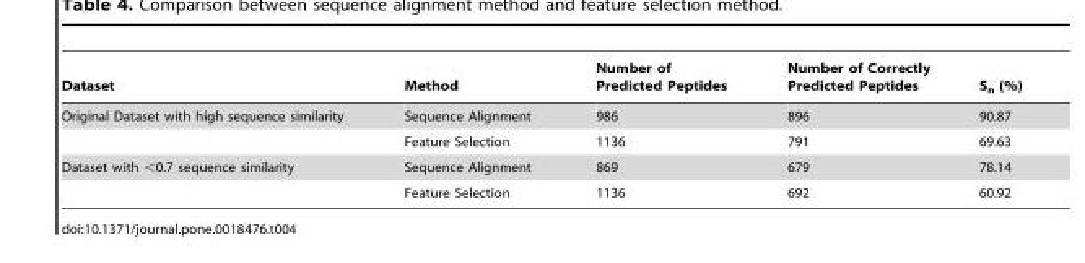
<table><thead><tr><td>Dataset</td><td>Method</td><td>Number of Predicted Peptides</td><td>Number of Correctly Predicted Peptides</td><td>S<sub>n</sub> (%)</td></tr></thead><tbody><tr><td rowspan="2">Original Dataset with high sequence similarity</td><td>Sequence Alignment</td><td>986</td><td>896</td><td>90.87</td></tr><tr><td>Feature Selection</td><td>1136</td><td>791</td><td>69.63</td></tr><tr><td rowspan="2">Dataset with &lt;0.7 sequence similarity</td><td>Sequence Alignment</td><td>869</td><td>679</td><td>78.14</td></tr><tr><td>Feature Selection</td><td>1136</td><td>692</td><td>60.92</td></tr></tbody></table>